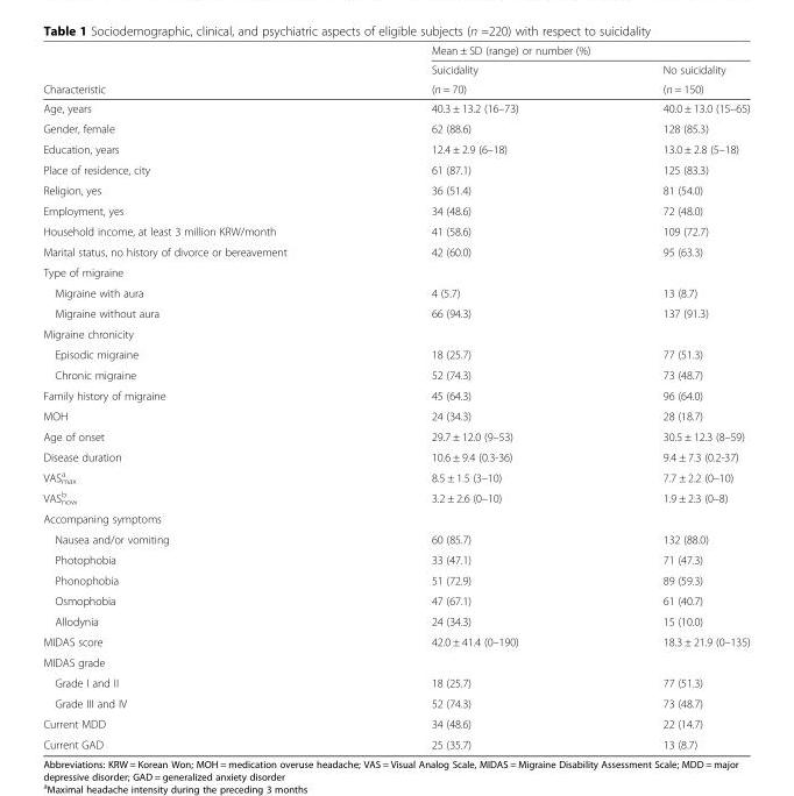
<table><thead><tr><td rowspan="3">Characteristic</td><td colspan="2">Mean ± SD (range) or number (%)</td></tr><tr><td rowspan="2">Suicidality (n = 70)</td><td rowspan="2">No suicidality (n = 150)</td></tr><tr></tr></thead><tbody><tr><td>Age, years</td><td>40.3 ± 13.2 (16–73)</td><td>40.0 ± 13.0 (15–65)</td></tr><tr><td>Gender, female</td><td>62 (88.6)</td><td>128 (85.3)</td></tr><tr><td>Education, years</td><td>12.4 ± 2.9 (6–18)</td><td>13.0 ± 2.8 (5–18)</td></tr><tr><td>Place of residence, city</td><td>61 (87.1)</td><td>125 (83.3)</td></tr><tr><td>Religion, yes</td><td>36 (51.4)</td><td>81 (54.0)</td></tr><tr><td>Employment, yes</td><td>34 (48.6)</td><td>72 (48.0)</td></tr><tr><td>Household income, at least 3 million KRW/month</td><td>41 (58.6)</td><td>109 (72.7)</td></tr><tr><td>Marital status, no history of divorce or bereavement</td><td>42 (60.0)</td><td>95 (63.3)</td></tr><tr><td colspan="3">Type of migraine</td></tr><tr><td>Migraine with aura</td><td>4 (5.7)</td><td>13 (8.7)</td></tr><tr><td>Migraine without aura</td><td>66 (94.3)</td><td>137 (91.3)</td></tr><tr><td colspan="3">Migraine chronicity</td></tr><tr><td>Episodic migraine</td><td>18 (25.7)</td><td>77 (51.3)</td></tr><tr><td>Chronic migraine</td><td>52 (74.3)</td><td>73 (48.7)</td></tr><tr><td>Family history of migraine</td><td>45 (64.3)</td><td>96 (64.0)</td></tr><tr><td>MOH</td><td>24 (34.3)</td><td>28 (18.7)</td></tr><tr><td>Age of onset</td><td>29.7 ± 12.0 (9–53)</td><td>30.5 ± 12.3 (8–59)</td></tr><tr><td>Disease duration</td><td>10.6 ± 9.4 (0.3-36)</td><td>9.4 ± 7.3 (0.2-37)</td></tr><tr><td>VAS<sub>max</sub> <sup>a</sup></td><td>8.5 ± 1.5 (3–10)</td><td>7.7 ± 2.2 (0–10)</td></tr><tr><td>VAS<sub>now</sub> <sup>b</sup></td><td>3.2 ± 2.6 (0–10)</td><td>1.9 ± 2.3 (0–8)</td></tr><tr><td colspan="3">Accompaning symptoms</td></tr><tr><td>Nausea and/or vomiting</td><td>60 (85.7)</td><td>132 (88.0)</td></tr><tr><td>Photophobia</td><td>33 (47.1)</td><td>71 (47.3)</td></tr><tr><td>Phonophobia</td><td>51 (72.9)</td><td>89 (59.3)</td></tr><tr><td>Osmophobia</td><td>47 (67.1)</td><td>61 (40.7)</td></tr><tr><td>Allodynia</td><td>24 (34.3)</td><td>15 (10.0)</td></tr><tr><td>MIDAS score</td><td>42.0 ± 41.4 (0–190)</td><td>18.3 ± 21.9 (0–135)</td></tr><tr><td colspan="3">MIDAS grade</td></tr><tr><td>Grade I and II</td><td>18 (25.7)</td><td>77 (51.3)</td></tr><tr><td>Grade III and IV</td><td>52 (74.3)</td><td>73 (48.7)</td></tr><tr><td>Current MDD</td><td>34 (48.6)</td><td>22 (14.7)</td></tr><tr><td>Current GAD</td><td>25 (35.7)</td><td>13 (8.7)</td></tr></tbody></table>